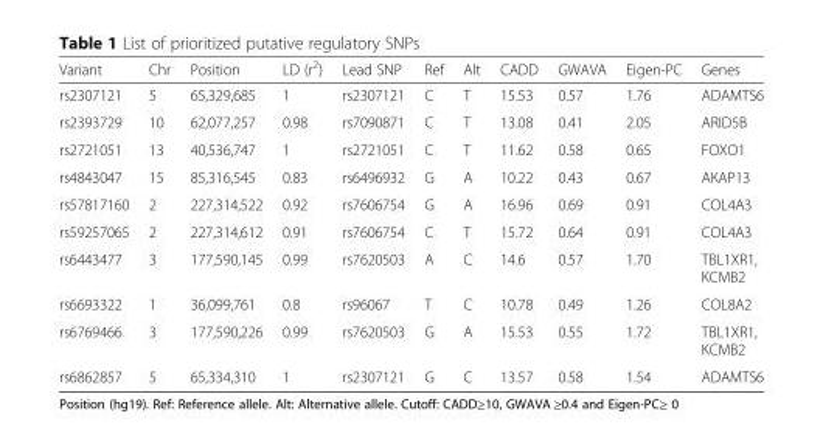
<table><thead><tr><td>Variant</td><td>Chr</td><td>Position</td><td>LD (r<sup>2</sup>)</td><td>Lead SNP</td><td>Ref</td><td>Alt</td><td>CADD</td><td>GWAVA</td><td>Eigen-PC</td><td>Genes</td></tr></thead><tbody><tr><td>rs2307121</td><td>5</td><td>65,329,685</td><td>1</td><td>rs2307121</td><td>C</td><td>T</td><td>15.53</td><td>0.57</td><td>1.76</td><td>ADAMTS6</td></tr><tr><td>rs2393729</td><td>10</td><td>62,077,257</td><td>0.98</td><td>rs7090871</td><td>C</td><td>T</td><td>13.08</td><td>0.41</td><td>2.05</td><td>ARID5B</td></tr><tr><td>rs2721051</td><td>13</td><td>40,536,747</td><td>1</td><td>rs2721051</td><td>C</td><td>T</td><td>11.62</td><td>0.58</td><td>0.65</td><td>FOXO1</td></tr><tr><td>rs4843047</td><td>15</td><td>85,316,545</td><td>0.83</td><td>rs6496932</td><td>G</td><td>A</td><td>10.22</td><td>0.43</td><td>0.67</td><td>AKAP13</td></tr><tr><td>rs57817160</td><td>2</td><td>227,314,522</td><td>0.92</td><td>rs7606754</td><td>G</td><td>A</td><td>16.96</td><td>0.69</td><td>0.91</td><td>COL4A3</td></tr><tr><td>rs59257065</td><td>2</td><td>227,314,612</td><td>0.91</td><td>rs7606754</td><td>C</td><td>T</td><td>15.72</td><td>0.64</td><td>0.91</td><td>COL4A3</td></tr><tr><td>rs6443477</td><td>3</td><td>177,590,145</td><td>0.99</td><td>rs7620503</td><td>A</td><td>C</td><td>14.6</td><td>0.57</td><td>1.70</td><td>TBL1XR1, KCMB2</td></tr><tr><td>rs6693322</td><td>1</td><td>36,099,761</td><td>0.8</td><td>rs96067</td><td>T</td><td>C</td><td>10.78</td><td>0.49</td><td>1.26</td><td>COL8A2</td></tr><tr><td>rs6769466</td><td>3</td><td>177,590,226</td><td>0.99</td><td>rs7620503</td><td>G</td><td>A</td><td>15.53</td><td>0.55</td><td>1.72</td><td>TBL1XR1, KCMB2</td></tr><tr><td>rs6862857</td><td>5</td><td>65,334,310</td><td>1</td><td>rs2307121</td><td>G</td><td>C</td><td>13.57</td><td>0.58</td><td>1.54</td><td>ADAMTS6</td></tr></tbody></table>